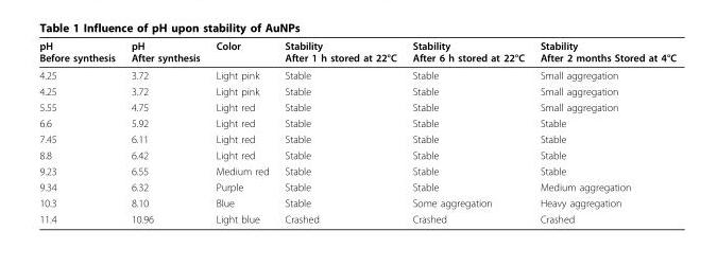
<table><thead><tr><td>pH Before synthesis</td><td>pH After synthesis</td><td>Color</td><td>Stability After 1 h stored at 22°C</td><td>Stability After 6 h stored at 22°C</td><td>Stability After 2 months Stored at 4°C</td></tr></thead><tbody><tr><td>4.25</td><td>3.72</td><td>Light pink</td><td>Stable</td><td>Stable</td><td>Small aggregation</td></tr><tr><td>4.25</td><td>3.72</td><td>Light pink</td><td>Stable</td><td>Stable</td><td>Small aggregation</td></tr><tr><td>5.55</td><td>4.75</td><td>Light red</td><td>Stable</td><td>Stable</td><td>Small aggregation</td></tr><tr><td>6.6</td><td>5.92</td><td>Light red</td><td>Stable</td><td>Stable</td><td>Stable</td></tr><tr><td>7.45</td><td>6.11</td><td>Light red</td><td>Stable</td><td>Stable</td><td>Stable</td></tr><tr><td>8.8</td><td>6.42</td><td>Light red</td><td>Stable</td><td>Stable</td><td>Stable</td></tr><tr><td>9.23</td><td>6.55</td><td>Medium red</td><td>Stable</td><td>Stable</td><td>Stable</td></tr><tr><td>9.34</td><td>6.32</td><td>Purple</td><td>Stable</td><td>Stable</td><td>Medium aggregation</td></tr><tr><td>10.3</td><td>8.10</td><td>Blue</td><td>Stable</td><td>Some aggregation</td><td>Heavy aggregation</td></tr><tr><td>11.4</td><td>10.96</td><td>Light blue</td><td>Crashed</td><td>Crashed</td><td>Crashed</td></tr></tbody></table>